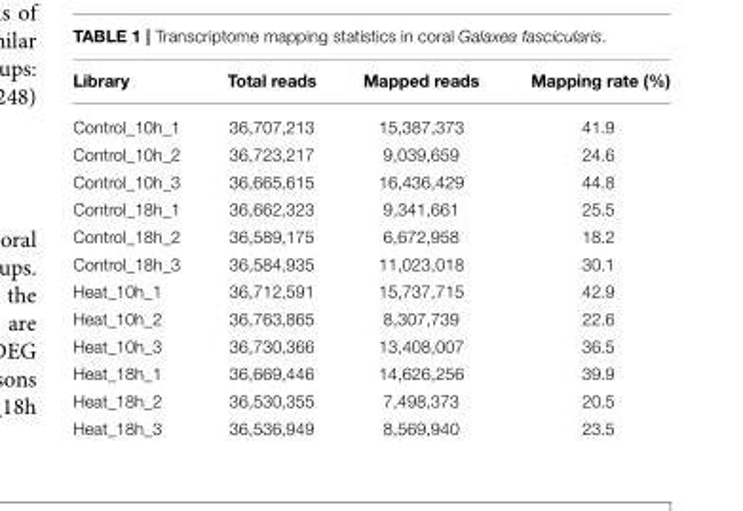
<table><thead><tr><td>Library</td><td>Total reads</td><td>Mapped reads</td><td>Mapping rate (%)</td></tr></thead><tbody><tr><td>Control_10h_1</td><td>36,707,213</td><td>15,387,373</td><td>41.9</td></tr><tr><td>Control_10h_2</td><td>36,723,217</td><td>9,039,659</td><td>24.6</td></tr><tr><td>Control_10h_3</td><td>36,665,615</td><td>16,436,429</td><td>44.8</td></tr><tr><td>Control_18h_1</td><td>36,662,323</td><td>9,341,661</td><td>25.5</td></tr><tr><td>Control_18h_2</td><td>36,589,175</td><td>6,672,958</td><td>18.2</td></tr><tr><td>Control_18h_3</td><td>36,584,935</td><td>11,023,018</td><td>30.1</td></tr><tr><td>Heat_10h_1</td><td>36,712,591</td><td>15,737,715</td><td>42.9</td></tr><tr><td>Heat_10h_2</td><td>36,763,865</td><td>8,307,739</td><td>22.6</td></tr><tr><td>Heat_10h_3</td><td>36,730,366</td><td>13,408,007</td><td>36.5</td></tr><tr><td>Heat_18h_1</td><td>36,669,446</td><td>14,626,256</td><td>39.9</td></tr><tr><td>Heat_18h_2</td><td>36,530,355</td><td>7,498,373</td><td>20.5</td></tr><tr><td>Heat_18h_3</td><td>36,536,949</td><td>8,569,940</td><td>23.5</td></tr></tbody></table>